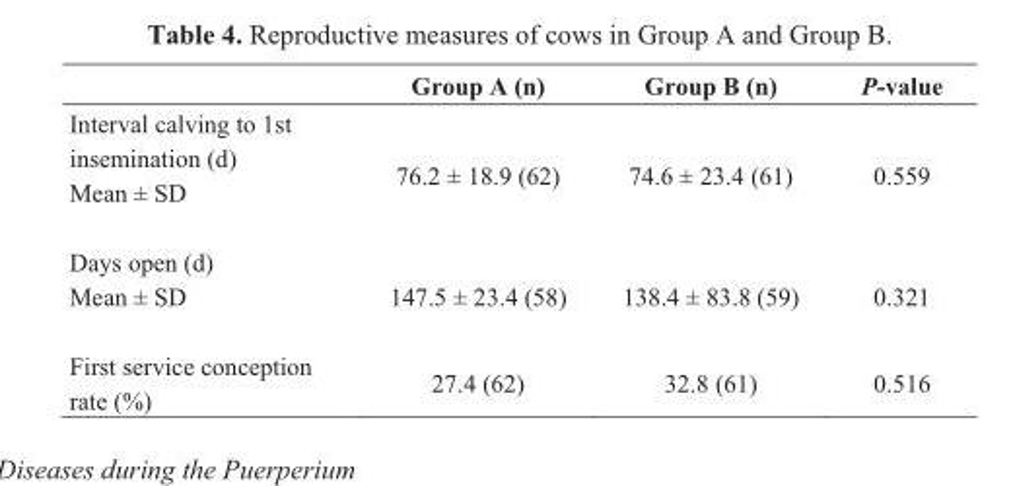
<table><thead><tr><td></td><td>Group A (n)</td><td>Group B (n)</td><td>P-value</td></tr></thead><tbody><tr><td>Interval calving to 1st insemination (d) Mean ± SD</td><td>76.2 ± 18.9 (62)</td><td>74.6 ± 23.4 (61)</td><td>0.559</td></tr><tr><td>Days open (d) Mean ± SD</td><td>147.5 ± 23.4 (58)</td><td>138.4 ± 83.8 (59)</td><td>0.321</td></tr><tr><td>First service conception rate (%)</td><td>27.4 (62)</td><td>32.8 (61)</td><td>0.516</td></tr></tbody></table>